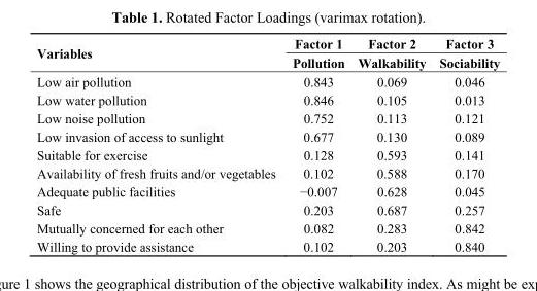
<table><thead><tr><td rowspan="2">Variables</td><td rowspan="2">Factor 1 Pollution</td><td rowspan="2">Factor 2 Walkability</td><td rowspan="2">Factor 3 Sociability</td></tr><tr></tr></thead><tbody><tr><td>Low air pollution</td><td>0.843</td><td>0.069</td><td>0.046</td></tr><tr><td>Low water pollution</td><td>0.846</td><td>0.105</td><td>0.013</td></tr><tr><td>Low noise pollution</td><td>0.752</td><td>0.113</td><td>0.121</td></tr><tr><td>Low invasion of access to sunlight</td><td>0.677</td><td>0.130</td><td>0.089</td></tr><tr><td>Suitable for exercise</td><td>0.128</td><td>0.593</td><td>0.141</td></tr><tr><td>Availability of fresh fruits and/or vegetables</td><td>0.102</td><td>0.588</td><td>0.170</td></tr><tr><td>Adequate public facilities</td><td>−0.007</td><td>0.628</td><td>0.045</td></tr><tr><td>Safe</td><td>0.203</td><td>0.687</td><td>0.257</td></tr><tr><td>Mutually concerned for each other</td><td>0.082</td><td>0.283</td><td>0.842</td></tr><tr><td>Willing to provide assistance</td><td>0.102</td><td>0.203</td><td>0.840</td></tr></tbody></table>